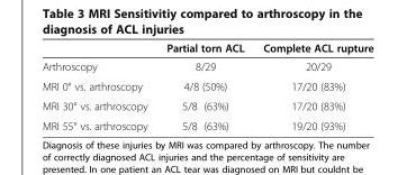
<table><thead><tr><td></td><td>Partial torn ACL</td><td>Complete ACL rupture</td></tr></thead><tbody><tr><td>Arthroscopy</td><td>8/29</td><td>20/29</td></tr><tr><td>MRI 0° vs. arthroscopy</td><td>4/8 (50%)</td><td>17/20 (83%)</td></tr><tr><td>MRI 30° vs. arthroscopy</td><td>5/8 (63%)</td><td>17/20 (83%)</td></tr><tr><td>MRI 55° vs. arthroscopy</td><td>5/8 (63%)</td><td>19/20 (93%)</td></tr></tbody></table>